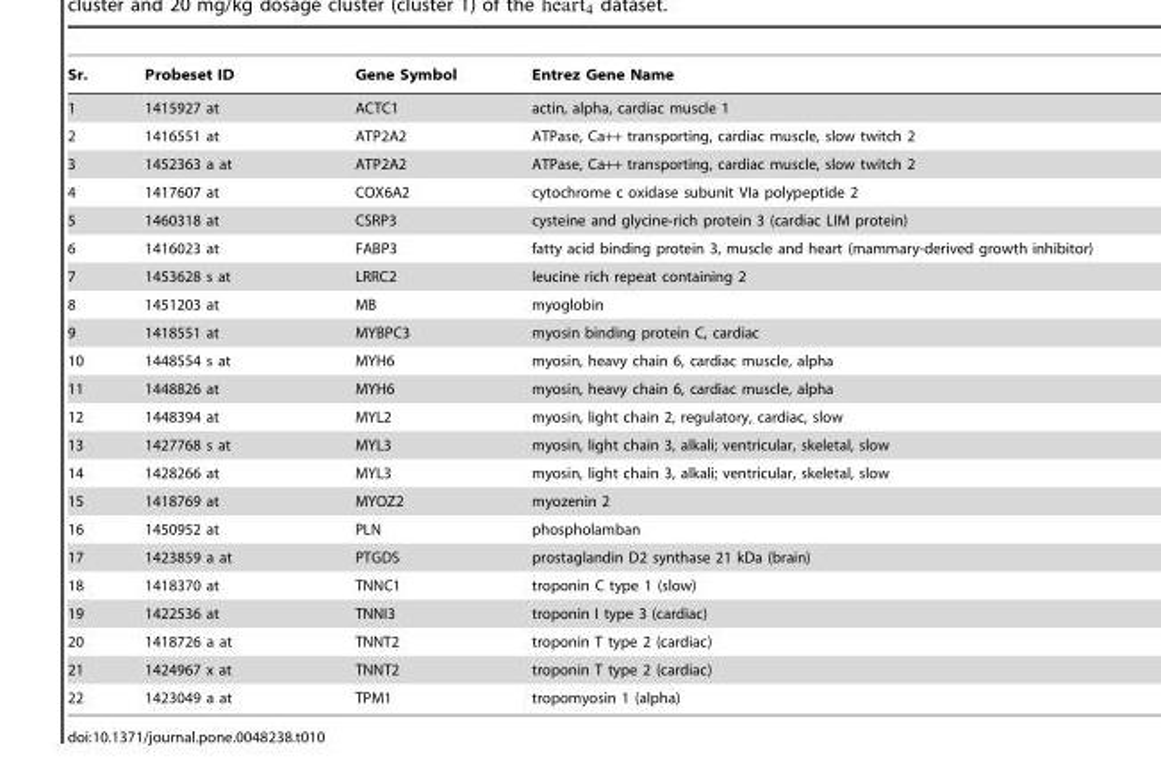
<table><thead><tr><td>Sr.</td><td>Probeset ID</td><td>Gene Symbol</td><td>Entrez Gene Name</td></tr></thead><tbody><tr><td>1</td><td>1415927 at</td><td>ACTC1</td><td>actin, alpha, cardiac muscle 1</td></tr><tr><td>2</td><td>1416551 at</td><td>ATP2A2</td><td>ATPase, Ca++ transporting, cardiac muscle, slow twitch 2</td></tr><tr><td>3</td><td>1452363 a at</td><td>ATP2A2</td><td>ATPase, Ca++ transporting, cardiac muscle, slow twitch 2</td></tr><tr><td>4</td><td>1417607 at</td><td>COX6A2</td><td>cytochrome c oxidase subunit VIa polypeptide 2</td></tr><tr><td>5</td><td>1460318 at</td><td>CSRP3</td><td>cysteine and glycine-rich protein 3 (cardiac LIM protein)</td></tr><tr><td>6</td><td>1416023 at</td><td>FABP3</td><td>fatty acid binding protein 3, muscle and heart (mammary-derived growth inhibitor)</td></tr><tr><td>7</td><td>1453628 s at</td><td>LRRC2</td><td>leucine rich repeat containing 2</td></tr><tr><td>8</td><td>1451203 at</td><td>MB</td><td>myoglobin</td></tr><tr><td>9</td><td>1418551 at</td><td>MYBPC3</td><td>myosin binding protein C, cardiac</td></tr><tr><td>10</td><td>1448554 s at</td><td>MYH6</td><td>myosin, heavy chain 6, cardiac muscle, alpha</td></tr><tr><td>11</td><td>1448826 at</td><td>MYH6</td><td>myosin, heavy chain 6, cardiac muscle, alpha</td></tr><tr><td>12</td><td>1448394 at</td><td>MYL2</td><td>myosin, light chain 2, regulatory, cardiac, slow</td></tr><tr><td>13</td><td>1427768 s at</td><td>MYL3</td><td>myosin, light chain 3, alkali; ventricular, skeletal, slow</td></tr><tr><td>14</td><td>1428266 at</td><td>MYL3</td><td>myosin, light chain 3, alkali; ventricular, skeletal, slow</td></tr><tr><td>15</td><td>1418769 at</td><td>MYOZ2</td><td>myozenin 2</td></tr><tr><td>16</td><td>1450952 at</td><td>PLN</td><td>phospholamban</td></tr><tr><td>17</td><td>1423859 a at</td><td>PTGDS</td><td>prostaglandin D2 synthase 21 kDa (brain)</td></tr><tr><td>18</td><td>1418370 at</td><td>TNNC1</td><td>troponin C type 1 (slow)</td></tr><tr><td>19</td><td>1422536 at</td><td>TNNI3</td><td>troponin I type 3 (cardiac)</td></tr><tr><td>20</td><td>1418726 a at</td><td>TNNT2</td><td>troponin T type 2 (cardiac)</td></tr><tr><td>21</td><td>1424967 x at</td><td>TNNT2</td><td>troponin T type 2 (cardiac)</td></tr><tr><td>22</td><td>1423049 a at</td><td>TPM1</td><td>tropomyosin 1 (alpha)</td></tr></tbody></table>